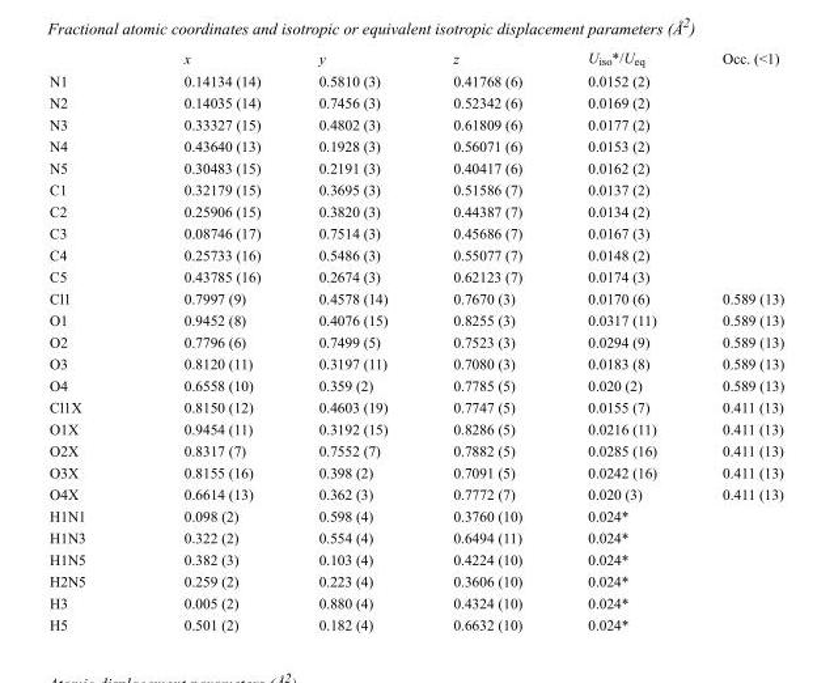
<table><thead><tr><td></td><td>x</td><td>y</td><td>z</td><td>U<sub>iso</sub>*/U<sub>eq</sub></td><td>Occ. (&lt;1)</td></tr></thead><tbody><tr><td>N1</td><td>0.14134 (14)</td><td>0.5810 (3)</td><td>0.41768 (6)</td><td>0.0152 (2)</td><td></td></tr><tr><td>N2</td><td>0.14035 (14)</td><td>0.7456 (3)</td><td>0.52342 (6)</td><td>0.0169 (2)</td><td></td></tr><tr><td>N3</td><td>0.33327 (15)</td><td>0.4802 (3)</td><td>0.61809 (6)</td><td>0.0177 (2)</td><td></td></tr><tr><td>N4</td><td>0.43640 (13)</td><td>0.1928 (3)</td><td>0.56071 (6)</td><td>0.0153 (2)</td><td></td></tr><tr><td>N5</td><td>0.30483 (15)</td><td>0.2191 (3)</td><td>0.40417 (6)</td><td>0.0162 (2)</td><td></td></tr><tr><td>C1</td><td>0.32179 (15)</td><td>0.3695 (3)</td><td>0.51586 (7)</td><td>0.0137 (2)</td><td></td></tr><tr><td>C2</td><td>0.25906 (15)</td><td>0.3820 (3)</td><td>0.44387 (7)</td><td>0.0134 (2)</td><td></td></tr><tr><td>C3</td><td>0.08746 (17)</td><td>0.7514 (3)</td><td>0.45686 (7)</td><td>0.0167 (3)</td><td></td></tr><tr><td>C4</td><td>0.25733 (16)</td><td>0.5486 (3)</td><td>0.55077 (7)</td><td>0.0148 (2)</td><td></td></tr><tr><td>C5</td><td>0.43785 (16)</td><td>0.2674 (3)</td><td>0.62123 (7)</td><td>0.0174 (3)</td><td></td></tr><tr><td>Cl1</td><td>0.7997 (9)</td><td>0.4578 (14)</td><td>0.7670 (3)</td><td>0.0170 (6)</td><td>0.589 (13)</td></tr><tr><td>O1</td><td>0.9452 (8)</td><td>0.4076 (15)</td><td>0.8255 (3)</td><td>0.0317 (11)</td><td>0.589 (13)</td></tr><tr><td>O2</td><td>0.7796 (6)</td><td>0.7499 (5)</td><td>0.7523 (3)</td><td>0.0294 (9)</td><td>0.589 (13)</td></tr><tr><td>O3</td><td>0.8120 (11)</td><td>0.3197 (11)</td><td>0.7080 (3)</td><td>0.0183 (8)</td><td>0.589 (13)</td></tr><tr><td>O4</td><td>0.6558 (10)</td><td>0.359 (2)</td><td>0.7785 (5)</td><td>0.020 (2)</td><td>0.589 (13)</td></tr><tr><td>Cl1X</td><td>0.8150 (12)</td><td>0.4603 (19)</td><td>0.7747 (5)</td><td>0.0155 (7)</td><td>0.411 (13)</td></tr><tr><td>O1X</td><td>0.9454 (11)</td><td>0.3192 (15)</td><td>0.8286 (5)</td><td>0.0216 (11)</td><td>0.411 (13)</td></tr><tr><td>O2X</td><td>0.8317 (7)</td><td>0.7552 (7)</td><td>0.7882 (5)</td><td>0.0285 (16)</td><td>0.411 (13)</td></tr><tr><td>O3X</td><td>0.8155 (16)</td><td>0.398 (2)</td><td>0.7091 (5)</td><td>0.0242 (16)</td><td>0.411 (13)</td></tr><tr><td>O4X</td><td>0.6614 (13)</td><td>0.362 (3)</td><td>0.7772 (7)</td><td>0.020 (3)</td><td>0.411 (13)</td></tr><tr><td>H1N1</td><td>0.098 (2)</td><td>0.598 (4)</td><td>0.3760 (10)</td><td>0.024*</td><td></td></tr><tr><td>H1N3</td><td>0.322 (2)</td><td>0.554 (4)</td><td>0.6494 (11)</td><td>0.024*</td><td></td></tr><tr><td>H1N5</td><td>0.382 (3)</td><td>0.103 (4)</td><td>0.4224 (10)</td><td>0.024*</td><td></td></tr><tr><td>H2N5</td><td>0.259 (2)</td><td>0.223 (4)</td><td>0.3606 (10)</td><td>0.024*</td><td></td></tr><tr><td>H3</td><td>0.005 (2)</td><td>0.880 (4)</td><td>0.4324 (10)</td><td>0.024*</td><td></td></tr><tr><td>H5</td><td>0.501 (2)</td><td>0.182 (4)</td><td>0.6632 (10)</td><td>0.024*</td><td></td></tr></tbody></table>